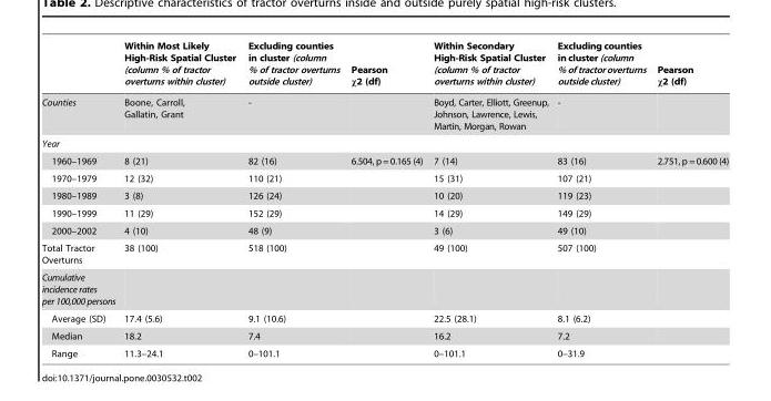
<table><thead><tr><td></td><td>Within Most Likely High-Risk Spatial Cluster (column % of tractor overturns within cluster)</td><td>Excluding counties in cluster (column % of tractor overturns outside cluster)</td><td>Pearson χ2 (df)</td><td>Within Secondary High-Risk Spatial Cluster (column % of tractor overturns within cluster)</td><td>Excluding counties in cluster (column % of tractor overturns outside cluster)</td><td>Pearson χ2 (df)</td></tr></thead><tbody><tr><td>Counties</td><td>Boone, Carroll, Gallatin, Grant</td><td>-</td><td></td><td>Boyd, Carter, Elliott, Greenup, Johnson, Lawrence, Lewis, Martin, Morgan, Rowan</td><td>-</td><td></td></tr><tr><td colspan="7">Year</td></tr><tr><td>1960–1969</td><td>8 (21)</td><td>82 (16)</td><td>6.504, p=0.165 (4)</td><td>7 (14)</td><td>83 (16)</td><td>2.751, p=0.600 (4)</td></tr><tr><td>1970–1979</td><td>12 (32)</td><td>110 (21)</td><td></td><td>15 (31)</td><td>107 (21)</td><td></td></tr><tr><td>1980–1989</td><td>3 (8)</td><td>126 (24)</td><td></td><td>10 (20)</td><td>119 (23)</td><td></td></tr><tr><td>1990–1999</td><td>11 (29)</td><td>152 (29)</td><td></td><td>14 (29)</td><td>149 (29)</td><td></td></tr><tr><td>2000–2002</td><td>4 (10)</td><td>48 (9)</td><td></td><td>3 (6)</td><td>49 (10)</td><td></td></tr><tr><td>Total Tractor Overturns</td><td>38 (100)</td><td>518 (100)</td><td></td><td>49 (100)</td><td>507 (100)</td><td></td></tr><tr><td colspan="7">Cumulative incidence rates per 100,000 persons</td></tr><tr><td>Average (SD)</td><td>17.4 (5.6)</td><td>9.1 (10.6)</td><td></td><td>22.5 (28.1)</td><td>8.1 (6.2)</td><td></td></tr><tr><td>Median</td><td>18.2</td><td>7.4</td><td></td><td>16.2</td><td>7.2</td><td></td></tr><tr><td>Range</td><td>11.3–24.1</td><td>0–101.1</td><td></td><td>0–101.1</td><td>0–31.9</td><td></td></tr></tbody></table>